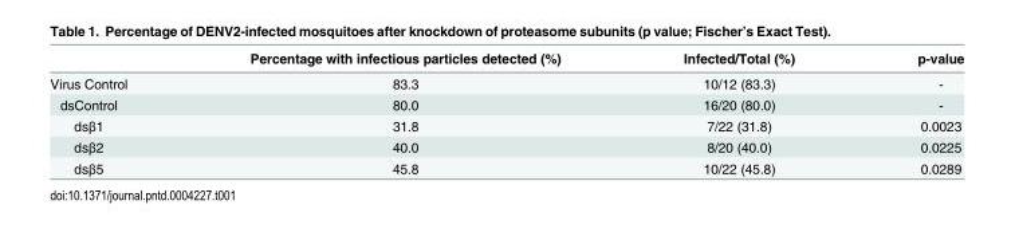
<table><thead><tr><td></td><td>Percentage with infectious particles detected (%)</td><td>Infected/Total (%)</td><td>p-value</td></tr></thead><tbody><tr><td>Virus Control</td><td>83.3</td><td>10/12 (83.3)</td><td>-</td></tr><tr><td>dsControl</td><td>80.0</td><td>16/20 (80.0)</td><td>-</td></tr><tr><td>dsβ1</td><td>31.8</td><td>7/22 (31.8)</td><td>0.0023</td></tr><tr><td>dsβ2</td><td>40.0</td><td>8/20 (40.0)</td><td>0.0225</td></tr><tr><td>dsβ5</td><td>45.8</td><td>10/22 (45.8)</td><td>0.0289</td></tr></tbody></table>